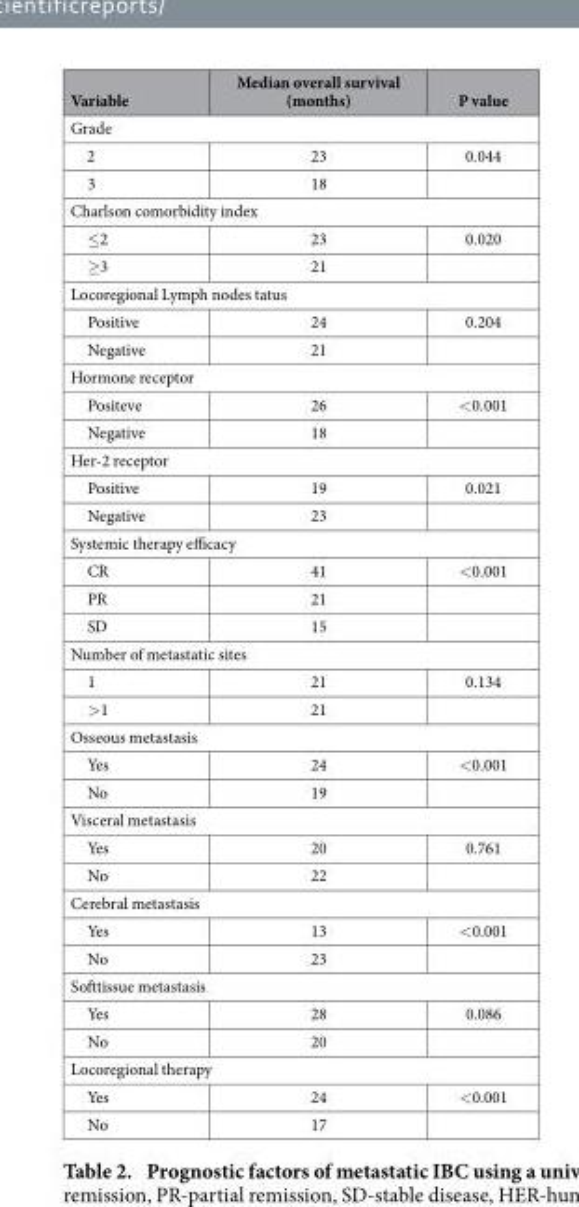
<table><thead><tr><td>Variable</td><td>Median overall survival (months)</td><td>P value</td></tr></thead><tbody><tr><td colspan="3">Grade</td></tr><tr><td>2</td><td>23</td><td>0.044</td></tr><tr><td>3</td><td>18</td><td></td></tr><tr><td colspan="3">Charlson comorbidity index</td></tr><tr><td>≤ 2</td><td>23</td><td>0.020</td></tr><tr><td>≥ 3</td><td>21</td><td></td></tr><tr><td colspan="3">Locoregional Lymph nodes tatus</td></tr><tr><td>Positive</td><td>24</td><td>0.204</td></tr><tr><td>Negative</td><td>21</td><td></td></tr><tr><td colspan="3">Hormone receptor</td></tr><tr><td>Positeve</td><td>26</td><td>&lt; 0.001</td></tr><tr><td>Negative</td><td>18</td><td></td></tr><tr><td colspan="3">Her-2 receptor</td></tr><tr><td>Positive</td><td>19</td><td>0.021</td></tr><tr><td>Negative</td><td>23</td><td></td></tr><tr><td colspan="3">Systemic therapy efficacy</td></tr><tr><td>CR</td><td>41</td><td>&lt; 0.001</td></tr><tr><td>PR</td><td>21</td><td></td></tr><tr><td>SD</td><td>15</td><td></td></tr><tr><td colspan="3">Number of metastatic sites</td></tr><tr><td>1</td><td>21</td><td>0.134</td></tr><tr><td>&gt; 1</td><td>21</td><td></td></tr><tr><td colspan="3">Osseous metastasis</td></tr><tr><td>Yes</td><td>24</td><td>&lt; 0.001</td></tr><tr><td>No</td><td>19</td><td></td></tr><tr><td colspan="3">Visceral metastasis</td></tr><tr><td>Yes</td><td>20</td><td>0.761</td></tr><tr><td>No</td><td>22</td><td></td></tr><tr><td colspan="3">Cerebral metastasis</td></tr><tr><td>Yes</td><td>13</td><td>&lt; 0.001</td></tr><tr><td>No</td><td>23</td><td></td></tr><tr><td colspan="3">Softtissue metastasis</td></tr><tr><td>Yes</td><td>28</td><td>0.086</td></tr><tr><td>No</td><td>20</td><td></td></tr><tr><td colspan="3">Locoregional therapy</td></tr><tr><td>Yes</td><td>24</td><td>&lt; 0.001</td></tr><tr><td>No</td><td>17</td><td></td></tr></tbody></table>